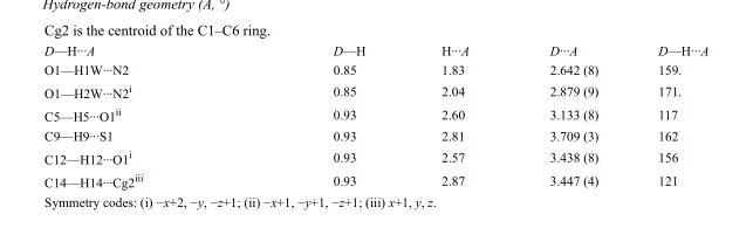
<table><tbody><tr><td>D—H···A</td><td>D—H</td><td>H···A</td><td>D···A</td><td>D—H···A</td></tr><tr><td>O1—H1W···N2</td><td>0.85</td><td>1.83</td><td>2.642 (8)</td><td>159.</td></tr><tr><td>O1—H2W···N2<sup>i</sup></td><td>0.85</td><td>2.04</td><td>2.879 (9)</td><td>171.</td></tr><tr><td>C5—H5···O1<sup>ii</sup></td><td>0.93</td><td>2.60</td><td>3.133 (8)</td><td>117</td></tr><tr><td>C9—H9···S1</td><td>0.93</td><td>2.81</td><td>3.709 (3)</td><td>162</td></tr><tr><td>C12—H12···O1<sup>i</sup></td><td>0.93</td><td>2.57</td><td>3.438 (8)</td><td>156</td></tr><tr><td>C14—H14···Cg2<sup>iii</sup></td><td>0.93</td><td>2.87</td><td>3.447 (4)</td><td>121</td></tr></tbody></table>